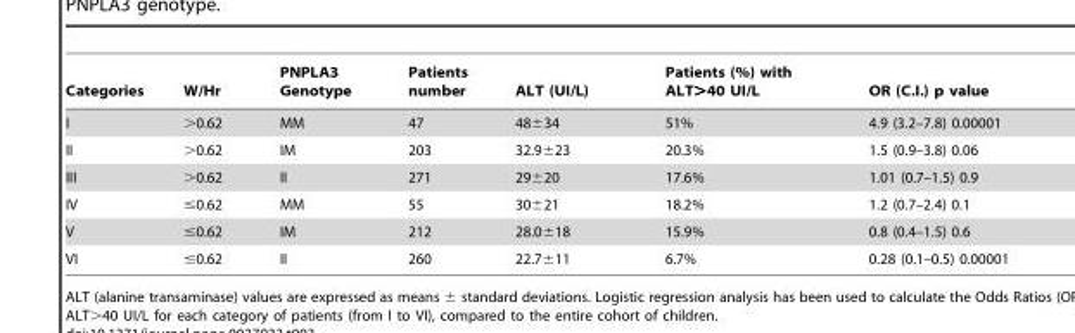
<table><thead><tr><td>Categories</td><td>W/Hr</td><td>PNPLA3 Genotype</td><td>Patients number</td><td>ALT (UI/L)</td><td>Patients (%) with ALT&gt;40 UI/L</td><td>OR (C.I.) p value</td></tr></thead><tbody><tr><td>I</td><td>&gt;0.62</td><td>MM</td><td>47</td><td>48±34</td><td>51%</td><td>4.9 (3.2–7.8) 0.00001</td></tr><tr><td>II</td><td>&gt;0.62</td><td>IM</td><td>203</td><td>32.9±23</td><td>20.3%</td><td>1.5 (0.9–3.8) 0.06</td></tr><tr><td>III</td><td>&gt;0.62</td><td>II</td><td>271</td><td>29±20</td><td>17.6%</td><td>1.01 (0.7–1.5) 0.9</td></tr><tr><td>IV</td><td>≤0.62</td><td>MM</td><td>55</td><td>30±21</td><td>18.2%</td><td>1.2 (0.7–2.4) 0.1</td></tr><tr><td>V</td><td>≤0.62</td><td>IM</td><td>212</td><td>28.0±18</td><td>15.9%</td><td>0.8 (0.4–1.5) 0.6</td></tr><tr><td>VI</td><td>≤0.62</td><td>II</td><td>260</td><td>22.7±11</td><td>6.7%</td><td>0.28 (0.1–0.5) 0.00001</td></tr></tbody></table>